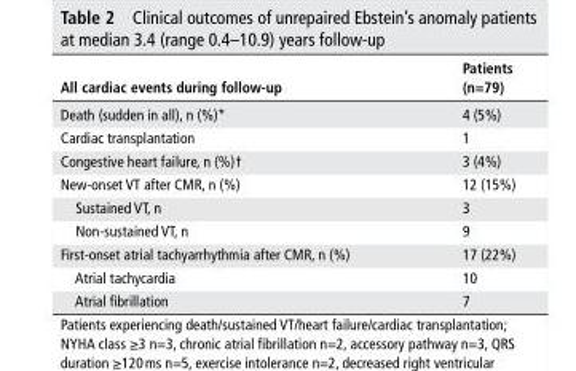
<table><thead><tr><td>All cardiac events during follow-up</td><td>Patients (n=79)</td></tr></thead><tbody><tr><td>Death (sudden in all), n (%)*</td><td>4 (5%)</td></tr><tr><td>Cardiac transplantation</td><td>1</td></tr><tr><td>Congestive heart failure, n (%)†</td><td>3 (4%)</td></tr><tr><td>New-onset VT after CMR, n (%)</td><td>12 (15%)</td></tr><tr><td>Sustained VT, n</td><td>3</td></tr><tr><td>Non-sustained VT, n</td><td>9</td></tr><tr><td>First-onset atrial tachyarrhythmia after CMR, n (%)</td><td>17 (22%)</td></tr><tr><td>Atrial tachycardia</td><td>10</td></tr><tr><td>Atrial fibrillation</td><td>7</td></tr></tbody></table>